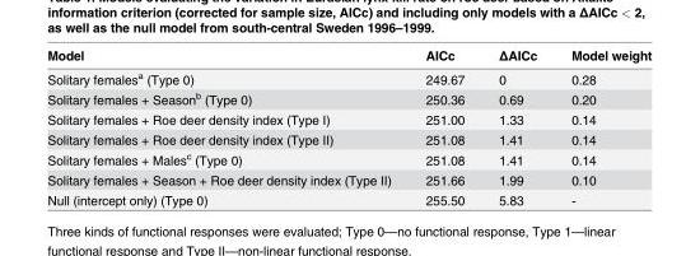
<table><thead><tr><td>Model</td><td>AICc</td><td>ΔAICc</td><td>Model weight</td></tr></thead><tbody><tr><td>Solitary females<sup>a</sup> (Type 0)</td><td>249.67</td><td>0</td><td>0.28</td></tr><tr><td>Solitary females + Season<sup>b</sup> (Type 0)</td><td>250.36</td><td>0.69</td><td>0.20</td></tr><tr><td>Solitary females + Roe deer density index (Type I)</td><td>251.00</td><td>1.33</td><td>0.14</td></tr><tr><td>Solitary females + Roe deer density index (Type II)</td><td>251.08</td><td>1.41</td><td>0.14</td></tr><tr><td>Solitary females + Males<sup>c</sup> (Type 0)</td><td>251.08</td><td>1.41</td><td>0.14</td></tr><tr><td>Solitary females + Season + Roe deer density index (Type II)</td><td>251.66</td><td>1.99</td><td>0.10</td></tr><tr><td>Null (intercept only) (Type 0)</td><td>255.50</td><td>5.83</td><td>-</td></tr></tbody></table>